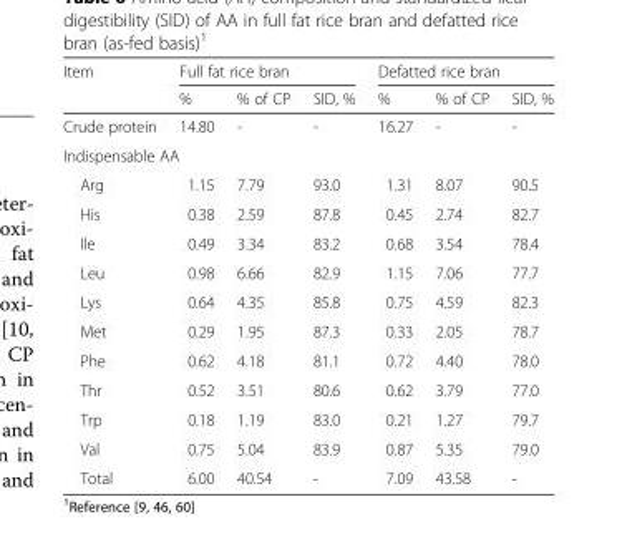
<table><thead><tr><td rowspan="2">Item</td><td colspan="3">Full fat rice bran</td><td colspan="3">Defatted rice bran</td></tr><tr><td>%</td><td>% of CP</td><td>SID, %</td><td>%</td><td>% of CP</td><td>SID, %</td></tr></thead><tbody><tr><td>Crude protein</td><td>14.80</td><td>-</td><td>-</td><td>16.27</td><td>-</td><td>-</td></tr><tr><td colspan="7">Indispensable AA</td></tr><tr><td>Arg</td><td>1.15</td><td>7.79</td><td>93.0</td><td>1.31</td><td>8.07</td><td>90.5</td></tr><tr><td>His</td><td>0.38</td><td>2.59</td><td>87.8</td><td>0.45</td><td>2.74</td><td>82.7</td></tr><tr><td>Ile</td><td>0.49</td><td>3.34</td><td>83.2</td><td>0.68</td><td>3.54</td><td>78.4</td></tr><tr><td>Leu</td><td>0.98</td><td>6.66</td><td>82.9</td><td>1.15</td><td>7.06</td><td>77.7</td></tr><tr><td>Lys</td><td>0.64</td><td>4.35</td><td>85.8</td><td>0.75</td><td>4.59</td><td>82.3</td></tr><tr><td>Met</td><td>0.29</td><td>1.95</td><td>87.3</td><td>0.33</td><td>2.05</td><td>78.7</td></tr><tr><td>Phe</td><td>0.62</td><td>4.18</td><td>81.1</td><td>0.72</td><td>4.40</td><td>78.0</td></tr><tr><td>Thr</td><td>0.52</td><td>3.51</td><td>80.6</td><td>0.62</td><td>3.79</td><td>77.0</td></tr><tr><td>Trp</td><td>0.18</td><td>1.19</td><td>83.0</td><td>0.21</td><td>1.27</td><td>79.7</td></tr><tr><td>Val</td><td>0.75</td><td>5.04</td><td>83.9</td><td>0.87</td><td>5.35</td><td>79.0</td></tr><tr><td>Total</td><td>6.00</td><td>40.54</td><td>-</td><td>7.09</td><td>43.58</td><td>-</td></tr></tbody></table>